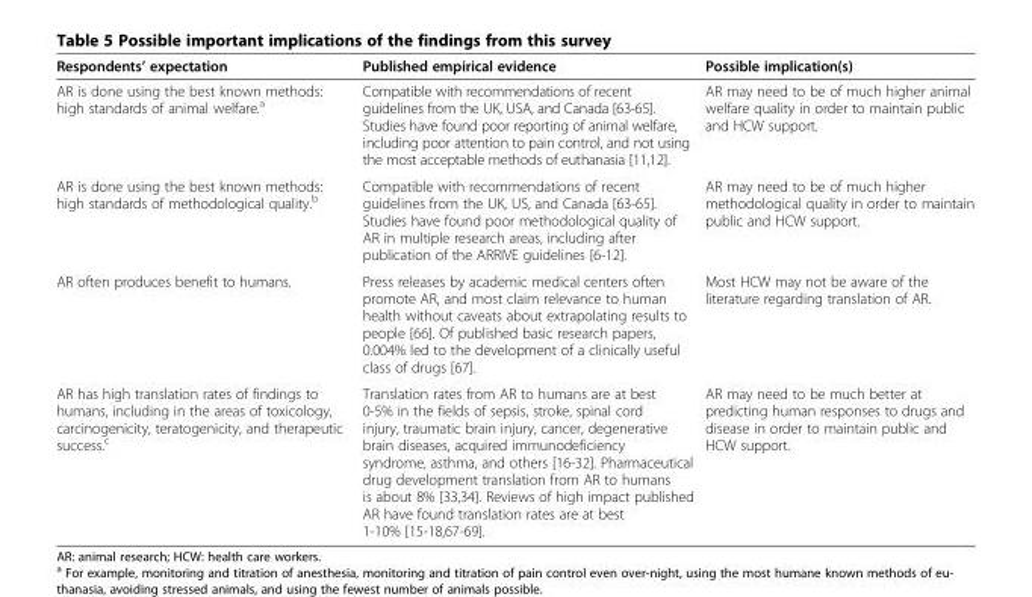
<table><thead><tr><td>Respondents’ expectation</td><td>Published empirical evidence</td><td>Possible implication(s)</td></tr></thead><tbody><tr><td>AR is done using the best known methods: high standards of animal welfare.<sup>a</sup></td><td>Compatible with recommendations of recent guidelines from the UK, USA, and Canada [63-65]. Studies have found poor reporting of animal welfare, including poor attention to pain control, and not using the most acceptable methods of euthanasia [11,12].</td><td>AR may need to be of much higher animal welfare quality in order to maintain public and HCW support.</td></tr><tr><td>AR is done using the best known methods: high standards of methodological quality.<sup>b</sup></td><td>Compatible with recommendations of recent guidelines from the UK, US, and Canada [63-65]. Studies have found poor methodological quality of AR in multiple research areas, including after publication of the ARRIVE guidelines [6-12].</td><td>AR may need to be of much higher methodological quality in order to maintain public and HCW support.</td></tr><tr><td>AR often produces benefit to humans.</td><td>Press releases by academic medical centers often promote AR, and most claim relevance to human health without caveats about extrapolating results to people [66]. Of published basic research papers, 0.004% led to the development of a clinically useful class of drugs [67].</td><td>Most HCW may not be aware of the literature regarding translation of AR.</td></tr><tr><td>AR has high translation rates of findings to humans, including in the areas of toxicology, carcinogenicity, teratogenicity, and therapeutic success.<sup>c</sup></td><td>Translation rates from AR to humans are at best 0-5% in the fields of sepsis, stroke, spinal cord injury, traumatic brain injury, cancer, degenerative brain diseases, acquired immunodeficiency syndrome, asthma, and others [16-32]. Pharmaceutical drug development translation from AR to humans is about 8% [33,34]. Reviews of high impact published AR have found translation rates are at best 1-10% [15-18,67-69].</td><td>AR may need to be much better at predicting human responses to drugs and disease in order to maintain public and HCW support.</td></tr></tbody></table>